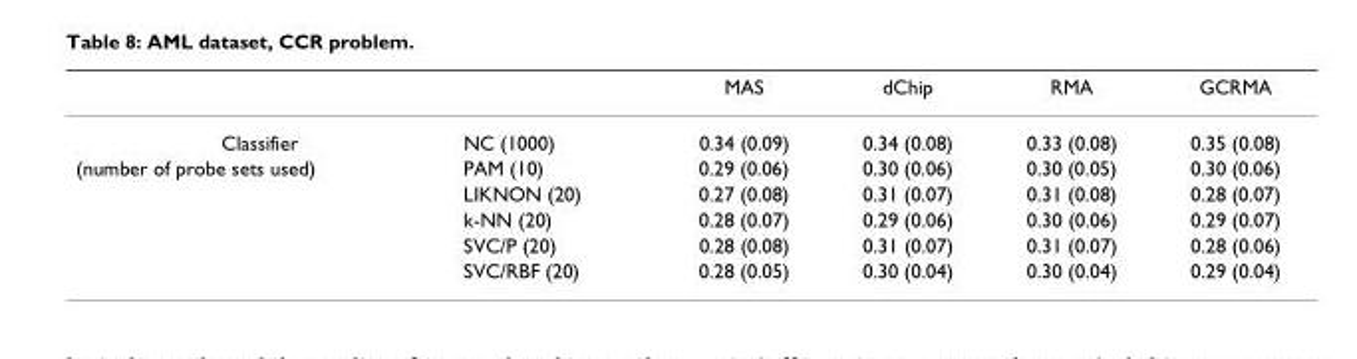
<table><thead><tr><td></td><td></td><td>MAS</td><td>dChip</td><td>RMA</td><td>GCRMA</td></tr></thead><tbody><tr><td>Classifier</td><td>NC (1000)</td><td>0.34 (0.09)</td><td>0.34 (0.08)</td><td>0.33 (0.08)</td><td>0.35 (0.08)</td></tr><tr><td rowspan="5">(number of probe sets used)</td><td>PAM (10)</td><td>0.29 (0.06)</td><td>0.30 (0.06)</td><td>0.30 (0.05)</td><td>0.30 (0.06)</td></tr><tr><td>LIKNON (20)</td><td>0.27 (0.08)</td><td>0.31 (0.07)</td><td>0.31 (0.08)</td><td>0.28 (0.07)</td></tr><tr><td>k-NN (20)</td><td>0.28 (0.07)</td><td>0.29 (0.06)</td><td>0.30 (0.06)</td><td>0.29 (0.07)</td></tr><tr><td>SVC/P (20)</td><td>0.28 (0.08)</td><td>0.31 (0.07)</td><td>0.31 (0.07)</td><td>0.28 (0.06)</td></tr><tr><td>SVC/RBF (20)</td><td>0.28 (0.05)</td><td>0.30 (0.04)</td><td>0.30 (0.04)</td><td>0.29 (0.04)</td></tr></tbody></table>